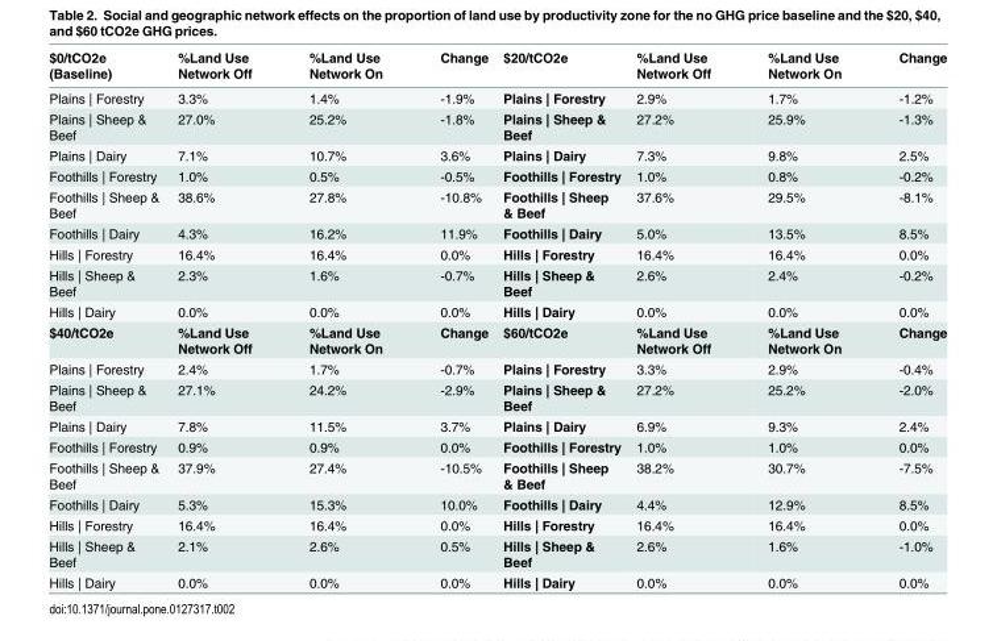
<table><thead><tr><td>$0/tCO2e (Baseline)</td><td>%Land Use Network Off</td><td>%Land Use Network On</td><td>Change</td><td>$20/tCO2e</td><td>%Land Use Network Off</td><td>%Land Use Network On</td><td>Change</td></tr></thead><tbody><tr><td>Plains | Forestry</td><td>3.3%</td><td>1.4%</td><td>-1.9%</td><td>Plains | Forestry</td><td>2.9%</td><td>1.7%</td><td>-1.2%</td></tr><tr><td>Plains | Sheep &amp; Beef</td><td>27.0%</td><td>25.2%</td><td>-1.8%</td><td>Plains | Sheep &amp; Beef</td><td>27.2%</td><td>25.9%</td><td>-1.3%</td></tr><tr><td>Plains | Dairy</td><td>7.1%</td><td>10.7%</td><td>3.6%</td><td>Plains | Dairy</td><td>7.3%</td><td>9.8%</td><td>2.5%</td></tr><tr><td>Foothills | Forestry</td><td>1.0%</td><td>0.5%</td><td>-0.5%</td><td>Foothills | Forestry</td><td>1.0%</td><td>0.8%</td><td>-0.2%</td></tr><tr><td>Foothills | Sheep &amp; Beef</td><td>38.6%</td><td>27.8%</td><td>-10.8%</td><td>Foothills | Sheep &amp; Beef</td><td>37.6%</td><td>29.5%</td><td>-8.1%</td></tr><tr><td>Foothills | Dairy</td><td>4.3%</td><td>16.2%</td><td>11.9%</td><td>Foothills | Dairy</td><td>5.0%</td><td>13.5%</td><td>8.5%</td></tr><tr><td>Hills | Forestry</td><td>16.4%</td><td>16.4%</td><td>0.0%</td><td>Hills | Forestry</td><td>16.4%</td><td>16.4%</td><td>0.0%</td></tr><tr><td>Hills | Sheep &amp; Beef</td><td>2.3%</td><td>1.6%</td><td>-0.7%</td><td>Hills | Sheep &amp; Beef</td><td>2.6%</td><td>2.4%</td><td>-0.2%</td></tr><tr><td>Hills | Dairy</td><td>0.0%</td><td>0.0%</td><td>0.0%</td><td>Hills | Dairy</td><td>0.0%</td><td>0.0%</td><td>0.0%</td></tr><tr><td>$40/tCO2e</td><td>%Land Use Network Off</td><td>%Land Use Network On</td><td>Change</td><td>$60/tCO2e</td><td>%Land Use Network Off</td><td>%Land Use Network On</td><td>Change</td></tr><tr><td>Plains | Forestry</td><td>2.4%</td><td>1.7%</td><td>-0.7%</td><td>Plains | Forestry</td><td>3.3%</td><td>2.9%</td><td>-0.4%</td></tr><tr><td>Plains | Sheep &amp; Beef</td><td>27.1%</td><td>24.2%</td><td>-2.9%</td><td>Plains | Sheep &amp; Beef</td><td>27.2%</td><td>25.2%</td><td>-2.0%</td></tr><tr><td>Plains | Dairy</td><td>7.8%</td><td>11.5%</td><td>3.7%</td><td>Plains | Dairy</td><td>6.9%</td><td>9.3%</td><td>2.4%</td></tr><tr><td>Foothills | Forestry</td><td>0.9%</td><td>0.9%</td><td>0.0%</td><td>Foothills | Forestry</td><td>1.0%</td><td>1.0%</td><td>0.0%</td></tr><tr><td>Foothills | Sheep &amp; Beef</td><td>37.9%</td><td>27.4%</td><td>-10.5%</td><td>Foothills | Sheep &amp; Beef</td><td>38.2%</td><td>30.7%</td><td>-7.5%</td></tr><tr><td>Foothills | Dairy</td><td>5.3%</td><td>15.3%</td><td>10.0%</td><td>Foothills | Dairy</td><td>4.4%</td><td>12.9%</td><td>8.5%</td></tr><tr><td>Hills | Forestry</td><td>16.4%</td><td>16.4%</td><td>0.0%</td><td>Hills | Forestry</td><td>16.4%</td><td>16.4%</td><td>0.0%</td></tr><tr><td>Hills | Sheep &amp; Beef</td><td>2.1%</td><td>2.6%</td><td>0.5%</td><td>Hills | Sheep &amp; Beef</td><td>2.6%</td><td>1.6%</td><td>-1.0%</td></tr><tr><td>Hills | Dairy</td><td>0.0%</td><td>0.0%</td><td>0.0%</td><td>Hills | Dairy</td><td>0.0%</td><td>0.0%</td><td>0.0%</td></tr></tbody></table>